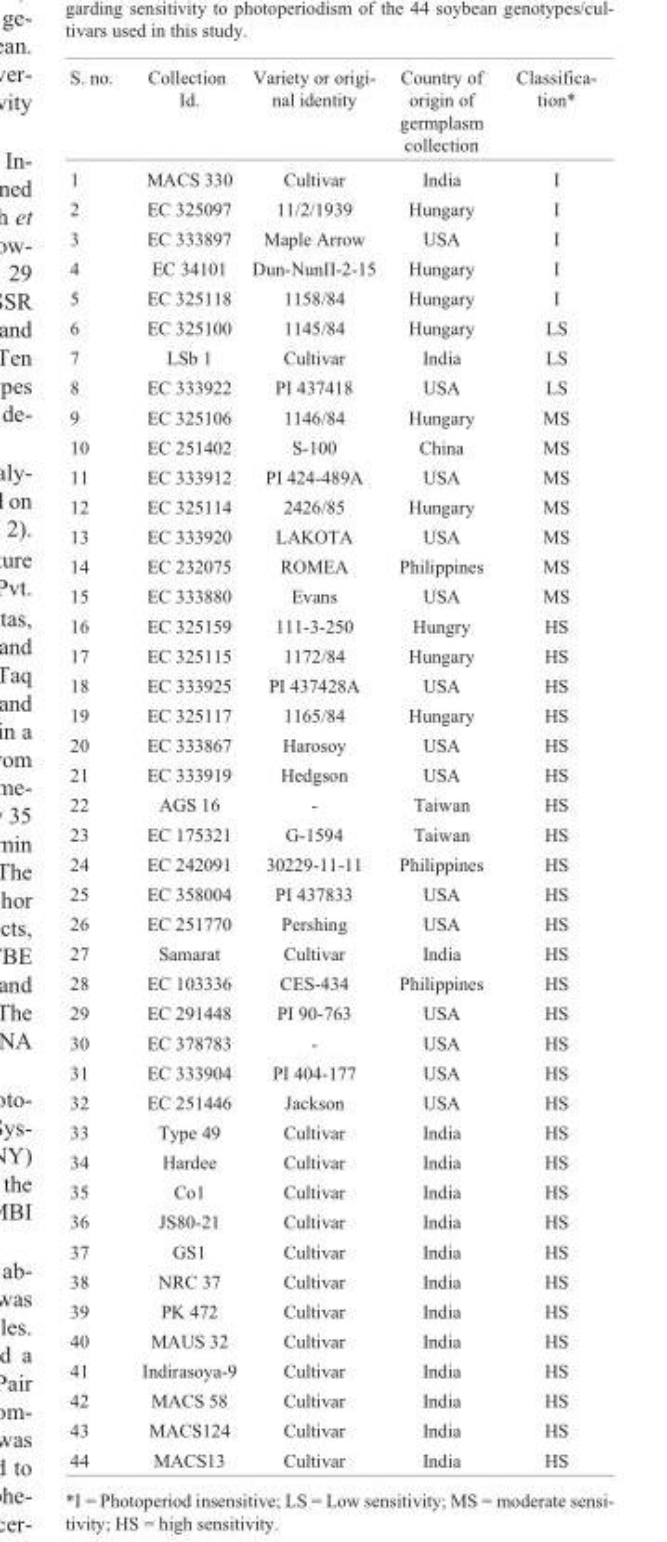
<table><thead><tr><td>S. no.</td><td>Collection Id.</td><td>Variety or origi- nal identity</td><td>Country of origin of germplasm collection</td><td>Classifica- tion*</td></tr></thead><tbody><tr><td>1</td><td>MACS 330</td><td>Cultivar</td><td>India</td><td>I</td></tr><tr><td>2</td><td>EC 325097</td><td>11/2/1939</td><td>Hungary</td><td>I</td></tr><tr><td>3</td><td>EC 333897</td><td>Maple Arrow</td><td>USA</td><td>I</td></tr><tr><td>4</td><td>EC 34101</td><td>Dun-NunII-2-15</td><td>Hungary</td><td>I</td></tr><tr><td>5</td><td>EC 325118</td><td>1158/84</td><td>Hungary</td><td>I</td></tr><tr><td>6</td><td>EC 325100</td><td>1145/84</td><td>Hungary</td><td>LS</td></tr><tr><td>7</td><td>LSb 1</td><td>Cultivar</td><td>India</td><td>LS</td></tr><tr><td>8</td><td>EC 333922</td><td>PI 437418</td><td>USA</td><td>LS</td></tr><tr><td>9</td><td>EC 325106</td><td>1146/84</td><td>Hungary</td><td>MS</td></tr><tr><td>10</td><td>EC 251402</td><td>S-100</td><td>China</td><td>MS</td></tr><tr><td>11</td><td>EC 333912</td><td>PI 424-489A</td><td>USA</td><td>MS</td></tr><tr><td>12</td><td>EC 325114</td><td>2426/85</td><td>Hungary</td><td>MS</td></tr><tr><td>13</td><td>EC 333920</td><td>LAKOTA</td><td>USA</td><td>MS</td></tr><tr><td>14</td><td>EC 232075</td><td>ROMEA</td><td>Philippines</td><td>MS</td></tr><tr><td>15</td><td>EC 333880</td><td>Evans</td><td>USA</td><td>MS</td></tr><tr><td>16</td><td>EC 325159</td><td>111-3-250</td><td>Hungry</td><td>HS</td></tr><tr><td>17</td><td>EC 325115</td><td>1172/84</td><td>Hungary</td><td>HS</td></tr><tr><td>18</td><td>EC 333925</td><td>PI 437428A</td><td>USA</td><td>HS</td></tr><tr><td>19</td><td>EC 325117</td><td>1165/84</td><td>Hungary</td><td>HS</td></tr><tr><td>20</td><td>EC 333867</td><td>Harosoy</td><td>USA</td><td>HS</td></tr><tr><td>21</td><td>EC 333919</td><td>Hedgson</td><td>USA</td><td>HS</td></tr><tr><td>22</td><td>AGS 16</td><td>-</td><td>Taiwan</td><td>HS</td></tr><tr><td>23</td><td>EC 175321</td><td>G-1594</td><td>Taiwan</td><td>HS</td></tr><tr><td>24</td><td>EC 242091</td><td>30229-11-11</td><td>Philippines</td><td>HS</td></tr><tr><td>25</td><td>EC 358004</td><td>PI 437833</td><td>USA</td><td>HS</td></tr><tr><td>26</td><td>EC 251770</td><td>Pershing</td><td>USA</td><td>HS</td></tr><tr><td>27</td><td>Samarat</td><td>Cultivar</td><td>India</td><td>HS</td></tr><tr><td>28</td><td>EC 103336</td><td>CES-434</td><td>Philippines</td><td>HS</td></tr><tr><td>29</td><td>EC 291448</td><td>PI 90-763</td><td>USA</td><td>HS</td></tr><tr><td>30</td><td>EC 378783</td><td>-</td><td>USA</td><td>HS</td></tr><tr><td>31</td><td>EC 333904</td><td>PI 404-177</td><td>USA</td><td>HS</td></tr><tr><td>32</td><td>EC 251446</td><td>Jackson</td><td>USA</td><td>HS</td></tr><tr><td>33</td><td>Type 49</td><td>Cultivar</td><td>India</td><td>HS</td></tr><tr><td>34</td><td>Hardee</td><td>Cultivar</td><td>India</td><td>HS</td></tr><tr><td>35</td><td>Co1</td><td>Cultivar</td><td>India</td><td>HS</td></tr><tr><td>36</td><td>JS80-21</td><td>Cultivar</td><td>India</td><td>HS</td></tr><tr><td>37</td><td>GS1</td><td>Cultivar</td><td>India</td><td>HS</td></tr><tr><td>38</td><td>NRC 37</td><td>Cultivar</td><td>India</td><td>HS</td></tr><tr><td>39</td><td>PK 472</td><td>Cultivar</td><td>India</td><td>HS</td></tr><tr><td>40</td><td>MAUS 32</td><td>Cultivar</td><td>India</td><td>HS</td></tr><tr><td>41</td><td>Indirasoya-9</td><td>Cultivar</td><td>India</td><td>HS</td></tr><tr><td>42</td><td>MACS 58</td><td>Cultivar</td><td>India</td><td>HS</td></tr><tr><td>43</td><td>MACS124</td><td>Cultivar</td><td>India</td><td>HS</td></tr><tr><td>44</td><td>MACS13</td><td>Cultivar</td><td>India</td><td>HS</td></tr></tbody></table>